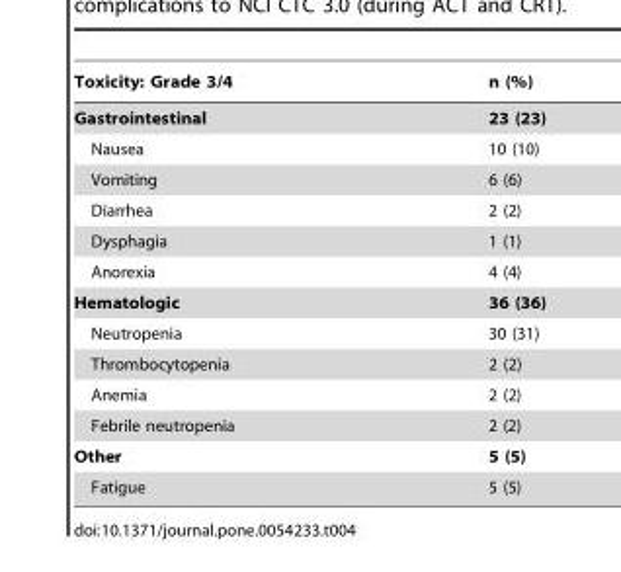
<table><thead><tr><td>Toxicity: Grade 3/4</td><td>n (%)</td></tr></thead><tbody><tr><td>Gastrointestinal</td><td>23 (23)</td></tr><tr><td>Nausea</td><td>10 (10)</td></tr><tr><td>Vomiting</td><td>6 (6)</td></tr><tr><td>Diarrhea</td><td>2 (2)</td></tr><tr><td>Dysphagia</td><td>1 (1)</td></tr><tr><td>Anorexia</td><td>4 (4)</td></tr><tr><td>Hematologic</td><td>36 (36)</td></tr><tr><td>Neutropenia</td><td>30 (31)</td></tr><tr><td>Thrombocytopenia</td><td>2 (2)</td></tr><tr><td>Anemia</td><td>2 (2)</td></tr><tr><td>Febrile neutropenia</td><td>2 (2)</td></tr><tr><td>Other</td><td>5 (5)</td></tr><tr><td>Fatigue</td><td>5 (5)</td></tr></tbody></table>